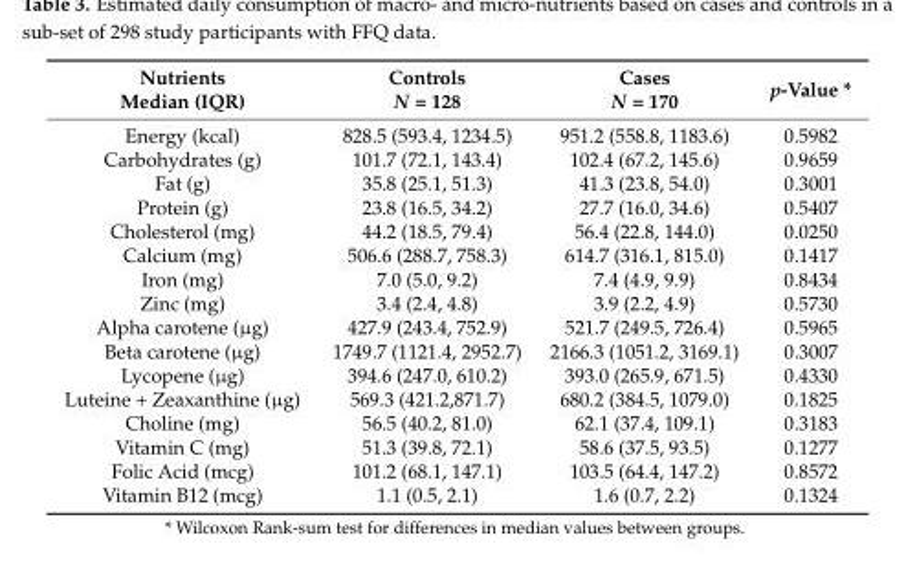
<table><thead><tr><td>Nutrients Median (IQR)</td><td>Controls N = 128</td><td>Cases N = 170</td><td>p-Value *</td></tr></thead><tbody><tr><td>Energy (kcal)</td><td>828.5 (593.4, 1234.5)</td><td>951.2 (558.8, 1183.6)</td><td>0.5982</td></tr><tr><td>Carbohydrates (g)</td><td>101.7 (72.1, 143.4)</td><td>102.4 (67.2, 145.6)</td><td>0.9659</td></tr><tr><td>Fat (g)</td><td>35.8 (25.1, 51.3)</td><td>41.3 (23.8, 54.0)</td><td>0.3001</td></tr><tr><td>Protein (g)</td><td>23.8 (16.5, 34.2)</td><td>27.7 (16.0, 34.6)</td><td>0.5407</td></tr><tr><td>Cholesterol (mg)</td><td>44.2 (18.5, 79.4)</td><td>56.4 (22.8, 144.0)</td><td>0.0250</td></tr><tr><td>Calcium (mg)</td><td>506.6 (288.7, 758.3)</td><td>614.7 (316.1, 815.0)</td><td>0.1417</td></tr><tr><td>Iron (mg)</td><td>7.0 (5.0, 9.2)</td><td>7.4 (4.9, 9.9)</td><td>0.8434</td></tr><tr><td>Zinc (mg)</td><td>3.4 (2.4, 4.8)</td><td>3.9 (2.2, 4.9)</td><td>0.5730</td></tr><tr><td>Alpha carotene (µg)</td><td>427.9 (243.4, 752.9)</td><td>521.7 (249.5, 726.4)</td><td>0.5965</td></tr><tr><td>Beta carotene (µg)</td><td>1749.7 (1121.4, 2952.7)</td><td>2166.3 (1051.2, 3169.1)</td><td>0.3007</td></tr><tr><td>Lycopene (µg)</td><td>394.6 (247.0, 610.2)</td><td>393.0 (265.9, 671.5)</td><td>0.4330</td></tr><tr><td>Luteine + Zeaxanthine (µg)</td><td>569.3 (421.2,871.7)</td><td>680.2 (384.5, 1079.0)</td><td>0.1825</td></tr><tr><td>Choline (mg)</td><td>56.5 (40.2, 81.0)</td><td>62.1 (37.4, 109.1)</td><td>0.3183</td></tr><tr><td>Vitamin C (mg)</td><td>51.3 (39.8, 72.1)</td><td>58.6 (37.5, 93.5)</td><td>0.1277</td></tr><tr><td>Folic Acid (mcg)</td><td>101.2 (68.1, 147.1)</td><td>103.5 (64.4, 147.2)</td><td>0.8572</td></tr><tr><td>Vitamin B12 (mcg)</td><td>1.1 (0.5, 2.1)</td><td>1.6 (0.7, 2.2)</td><td>0.1324</td></tr></tbody></table>